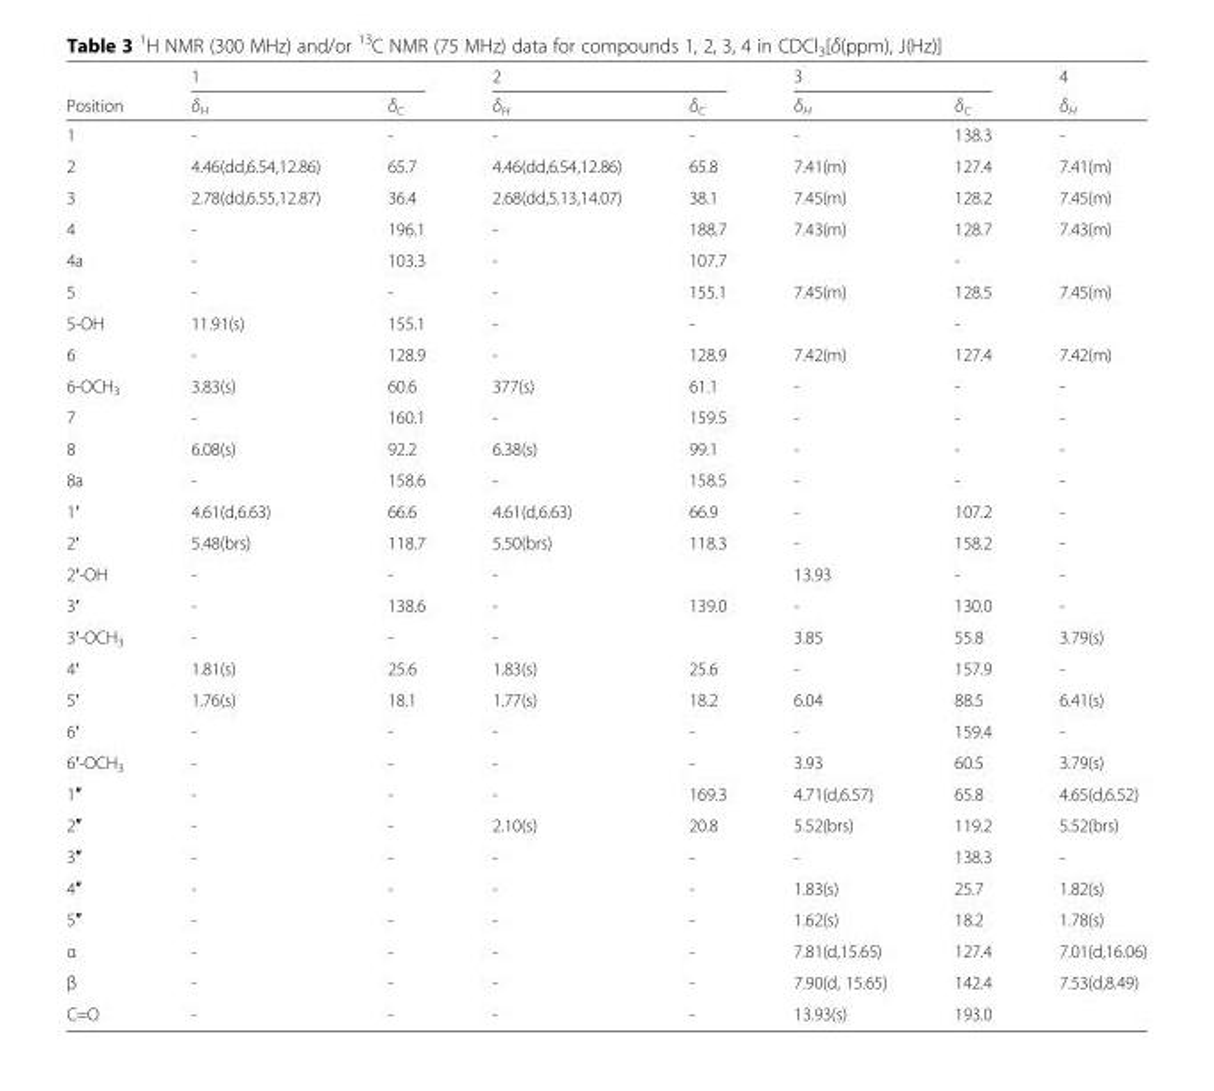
<table><thead><tr><td rowspan="2">Position</td><td colspan="2">1</td><td colspan="2">2</td><td colspan="2">3</td><td rowspan="2">4 δH</td></tr><tr><td>δ<sub>H</sub></td><td>δ<sub>C</sub></td><td>δ<sub>H</sub></td><td>δ<sub>C</sub></td><td>δ<sub>H</sub></td><td>δ<sub>C</sub></td></tr></thead><tbody><tr><td>1</td><td>-</td><td>-</td><td>-</td><td>-</td><td>-</td><td>138.3</td><td>-</td></tr><tr><td>2</td><td>4.46(dd,6.54,12.86)</td><td>65.7</td><td>4.46(dd,6.54,12.86)</td><td>65.8</td><td>7.41(m)</td><td>127.4</td><td>7.41(m)</td></tr><tr><td>3</td><td>2.78(dd,6.55,12.87)</td><td>36.4</td><td>2.68(dd,5.13,14.07)</td><td>38.1</td><td>7.45(m)</td><td>128.2</td><td>7.45(m)</td></tr><tr><td>4</td><td>-</td><td>196.1</td><td>-</td><td>188.7</td><td>7.43(m)</td><td>128.7</td><td>7.43(m)</td></tr><tr><td>4a</td><td>-</td><td>103.3</td><td>-</td><td>107.7</td><td></td><td>-</td><td></td></tr><tr><td>5</td><td>-</td><td>-</td><td>-</td><td>155.1</td><td>7.45(m)</td><td>128.5</td><td>7.45(m)</td></tr><tr><td>5-OH</td><td>11.91(s)</td><td>155.1</td><td>-</td><td>-</td><td></td><td>-</td><td></td></tr><tr><td>6</td><td>-</td><td>128.9</td><td>-</td><td>128.9</td><td>7.42(m)</td><td>127.4</td><td>7.42(m)</td></tr><tr><td>6-OCH<sub>3</sub></td><td>3.83(s)</td><td>60.6</td><td>377(s)</td><td>61.1</td><td>-</td><td>-</td><td>-</td></tr><tr><td>7</td><td>-</td><td>160.1</td><td>-</td><td>159.5</td><td>-</td><td>-</td><td>-</td></tr><tr><td>8</td><td>6.08(s)</td><td>92.2</td><td>6.38(s)</td><td>99.1</td><td>-</td><td>-</td><td>-</td></tr><tr><td>8a</td><td>-</td><td>158.6</td><td>-</td><td>158.5</td><td>-</td><td>-</td><td>-</td></tr><tr><td>1′</td><td>4.61(d,6.63)</td><td>66.6</td><td>4.61(d,6.63)</td><td>66.9</td><td>-</td><td>107.2</td><td>-</td></tr><tr><td>2′</td><td>5.48(brs)</td><td>118.7</td><td>5.50(brs)</td><td>118.3</td><td>-</td><td>158.2</td><td>-</td></tr><tr><td>2′-OH</td><td>-</td><td>-</td><td>-</td><td></td><td>13.93</td><td>-</td><td>-</td></tr><tr><td>3′</td><td>-</td><td>138.6</td><td>-</td><td>139.0</td><td>-</td><td>130.0</td><td>-</td></tr><tr><td>3′-OCH<sub>3</sub></td><td>-</td><td>-</td><td>-</td><td></td><td>3.85</td><td>55.8</td><td>3.79(s)</td></tr><tr><td>4′</td><td>1.81(s)</td><td>25.6</td><td>1.83(s)</td><td>25.6</td><td>-</td><td>157.9</td><td>-</td></tr><tr><td>5′</td><td>1.76(s)</td><td>18.1</td><td>1.77(s)</td><td>18.2</td><td>6.04</td><td>88.5</td><td>6.41(s)</td></tr><tr><td>6′</td><td>-</td><td>-</td><td>-</td><td>-</td><td>-</td><td>159.4</td><td>-</td></tr><tr><td>6′-OCH<sub>3</sub></td><td>-</td><td>-</td><td>-</td><td>-</td><td>3.93</td><td>60.5</td><td>3.79(s)</td></tr><tr><td>1″</td><td>-</td><td>-</td><td>-</td><td>169.3</td><td>4.71(d,6.57)</td><td>65.8</td><td>4.65(d,6.52)</td></tr><tr><td>2″</td><td>-</td><td>-</td><td>2.10(s)</td><td>20.8</td><td>5.52(brs)</td><td>119.2</td><td>5.52(brs)</td></tr><tr><td>3″</td><td>-</td><td>-</td><td>-</td><td>-</td><td>-</td><td>138.3</td><td>-</td></tr><tr><td>4″</td><td>-</td><td>-</td><td>-</td><td>-</td><td>1.83(s)</td><td>25.7</td><td>1.82(s)</td></tr><tr><td>5″</td><td>-</td><td>-</td><td>-</td><td>-</td><td>1.62(s)</td><td>18.2</td><td>1.78(s)</td></tr><tr><td>α</td><td>-</td><td>-</td><td>-</td><td>-</td><td>7.81(d,15.65)</td><td>127.4</td><td>7.01(d,16.06)</td></tr><tr><td>β</td><td>-</td><td>-</td><td>-</td><td>-</td><td>7.90(d, 15.65)</td><td>142.4</td><td>7.53(d,8.49)</td></tr><tr><td>C=O</td><td>-</td><td>-</td><td>-</td><td>-</td><td>13.93(s)</td><td>193.0</td><td></td></tr></tbody></table>